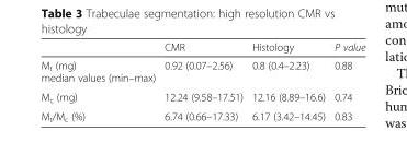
<table><thead><tr><td></td><td>CMR</td><td>Histology</td><td>P value</td></tr></thead><tbody><tr><td>M<sub>t</sub> (mg) median values (min–max)</td><td>0.92 (0.07–2.56)</td><td>0.8 (0.4–2.23)</td><td>0.88</td></tr><tr><td>M<sub>c</sub> (mg)</td><td>12.24 (9.58–17.51)</td><td>12.16 (8.89–16.6)</td><td>0.74</td></tr><tr><td>M<sub>t</sub>/M<sub>c</sub> (%)</td><td>6.74 (0.66–17.33)</td><td>6.17 (3.42–14.45)</td><td>0.83</td></tr></tbody></table>